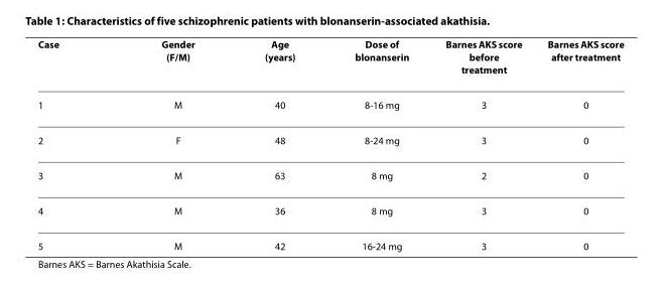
<table><thead><tr><td>Case</td><td>Gender (F/M)</td><td>Age (years)</td><td>Dose of blonanserin</td><td>Barnes AKS score before treatment</td><td>Barnes AKS score after treatment</td></tr></thead><tbody><tr><td>1</td><td>M</td><td>40</td><td>8-16 mg</td><td>3</td><td>0</td></tr><tr><td>2</td><td>F</td><td>48</td><td>8-24 mg</td><td>3</td><td>0</td></tr><tr><td>3</td><td>M</td><td>63</td><td>8 mg</td><td>2</td><td>0</td></tr><tr><td>4</td><td>M</td><td>36</td><td>8 mg</td><td>3</td><td>0</td></tr><tr><td>5</td><td>M</td><td>42</td><td>16-24 mg</td><td>3</td><td>0</td></tr></tbody></table>